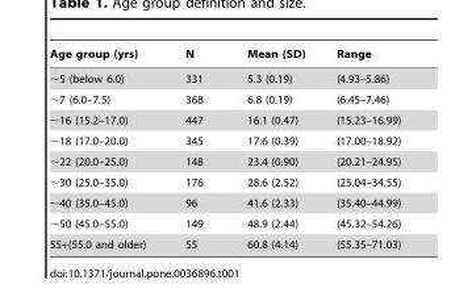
<table><thead><tr><td>Age group (yrs)</td><td>N</td><td>Mean (SD)</td><td>Range</td></tr></thead><tbody><tr><td>∼5 (below 6.0)</td><td>331</td><td>5.3 (0.19)</td><td>(4.93–5.86)</td></tr><tr><td>∼7 (6.0–7.5)</td><td>368</td><td>6.8 (0.19)</td><td>(6.45–7.46)</td></tr><tr><td>∼16 (15.2–17.0)</td><td>447</td><td>16.1 (0.47)</td><td>(15.23–16.99)</td></tr><tr><td>∼18 (17.0–20.0)</td><td>345</td><td>17.6 (0.39)</td><td>(17.00–18.92)</td></tr><tr><td>∼22 (20.0–25.0)</td><td>148</td><td>23.4 (0.90)</td><td>(20.21–24.95)</td></tr><tr><td>∼30 (25.0–35.0)</td><td>176</td><td>28.6 (2.52)</td><td>(25.04–34.55)</td></tr><tr><td>∼40 (35.0–45.0)</td><td>96</td><td>41.6 (2.33)</td><td>(35.40–44.99)</td></tr><tr><td>∼50 (45.0–55.0)</td><td>149</td><td>48.9 (2.44)</td><td>(45.32–54.26)</td></tr><tr><td>55+(55.0 and older)</td><td>55</td><td>60.8 (4.14)</td><td>(55.35–71.03)</td></tr></tbody></table>